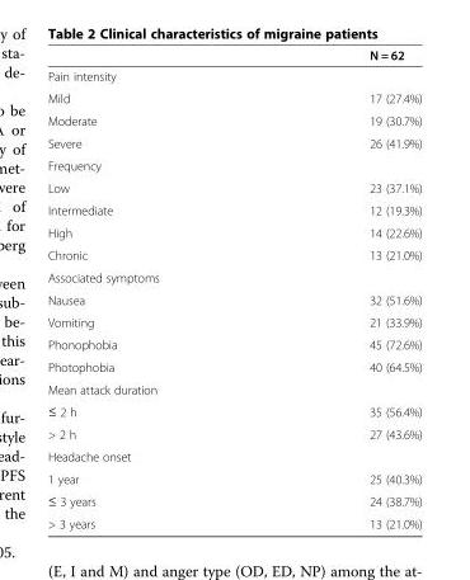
<table><thead><tr><td></td><td>N = 62</td></tr></thead><tbody><tr><td colspan="2">Pain intensity</td></tr><tr><td>Mild</td><td>17 (27.4%)</td></tr><tr><td>Moderate</td><td>19 (30.7%)</td></tr><tr><td>Severe</td><td>26 (41.9%)</td></tr><tr><td colspan="2">Frequency</td></tr><tr><td>Low</td><td>23 (37.1%)</td></tr><tr><td>Intermediate</td><td>12 (19.3%)</td></tr><tr><td>High</td><td>14 (22.6%)</td></tr><tr><td>Chronic</td><td>13 (21.0%)</td></tr><tr><td colspan="2">Associated symptoms</td></tr><tr><td>Nausea</td><td>32 (51.6%)</td></tr><tr><td>Vomiting</td><td>21 (33.9%)</td></tr><tr><td>Phonophobia</td><td>45 (72.6%)</td></tr><tr><td>Photophobia</td><td>40 (64.5%)</td></tr><tr><td colspan="2">Mean attack duration</td></tr><tr><td>≤ 2 h</td><td>35 (56.4%)</td></tr><tr><td>&gt; 2 h</td><td>27 (43.6%)</td></tr><tr><td colspan="2">Headache onset</td></tr><tr><td>1 year</td><td>25 (40.3%)</td></tr><tr><td>≤ 3 years</td><td>24 (38.7%)</td></tr><tr><td>&gt; 3 years</td><td>13 (21.0%)</td></tr></tbody></table>